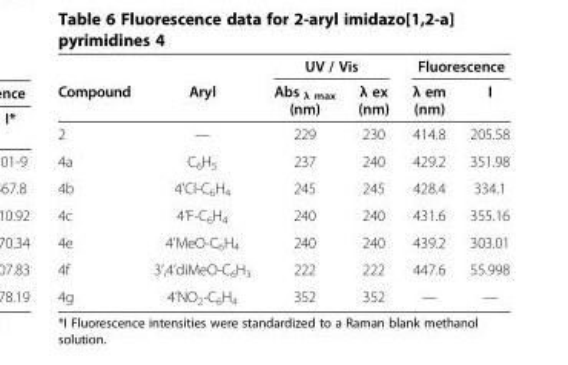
<table><thead><tr><td rowspan="2">Compound</td><td rowspan="2">Aryl</td><td colspan="2">UV / Vis</td><td colspan="2">Fluorescence</td></tr><tr><td>Abs <sub>λ max</sub> (nm)</td><td>λ ex (nm)</td><td>λ em (nm)</td><td>I</td></tr></thead><tbody><tr><td>2</td><td>—</td><td>229</td><td>230</td><td>414.8</td><td>205.58</td></tr><tr><td>4a</td><td>C<sub>6</sub>H<sub>5</sub></td><td>237</td><td>240</td><td>429.2</td><td>351.98</td></tr><tr><td>4b</td><td>4’Cl-C<sub>6</sub>H<sub>4</sub></td><td>245</td><td>245</td><td>428.4</td><td>334.1</td></tr><tr><td>4c</td><td>4’F-C<sub>6</sub>H<sub>4</sub></td><td>240</td><td>240</td><td>431.6</td><td>355.16</td></tr><tr><td>4e</td><td>4’MeO-C<sub>6</sub>H<sub>4</sub></td><td>240</td><td>240</td><td>439.2</td><td>303.01</td></tr><tr><td>4f</td><td>3’,4’diMeO-C<sub>6</sub>H<sub>3</sub></td><td>222</td><td>222</td><td>447.6</td><td>55.998</td></tr><tr><td>4g</td><td>4’NO<sub>2</sub>-C<sub>6</sub>H<sub>4</sub></td><td>352</td><td>352</td><td>—</td><td>—</td></tr></tbody></table>